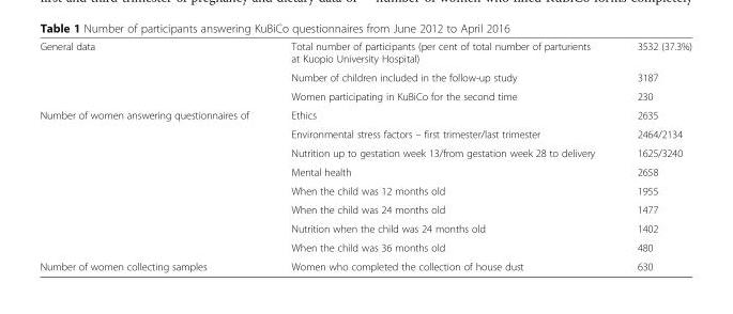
<table><tbody><tr><td rowspan="3">General data</td><td>Total number of participants (per cent of total number of parturients at Kuopio University Hospital)</td><td>3532 (37.3%)</td></tr><tr><td>Number of children included in the follow-up study</td><td>3187</td></tr><tr><td>Women participating in KuBiCo for the second time</td><td>230</td></tr><tr><td rowspan="8">Number of women answering questionnaires of</td><td>Ethics</td><td>2635</td></tr><tr><td>Environmental stress factors – first trimester/last trimester</td><td>2464/2134</td></tr><tr><td>Nutrition up to gestation week 13/from gestation week 28 to delivery</td><td>1625/3240</td></tr><tr><td>Mental health</td><td>2658</td></tr><tr><td>When the child was 12 months old</td><td>1955</td></tr><tr><td>When the child was 24 months old</td><td>1477</td></tr><tr><td>Nutrition when the child was 24 months old</td><td>1402</td></tr><tr><td>When the child was 36 months old</td><td>480</td></tr><tr><td>Number of women collecting samples</td><td>Women who completed the collection of house dust</td><td>630</td></tr></tbody></table>